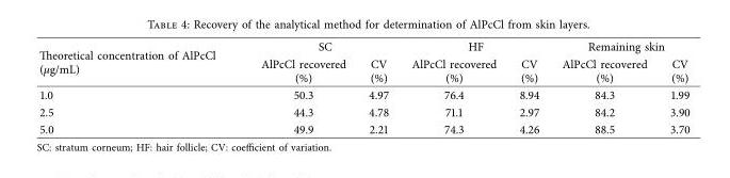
<table><thead><tr><td rowspan="2">Teoretical concentration of AlPcCl (µg/mL)</td><td colspan="2">SC</td><td colspan="2">HF</td><td colspan="2">Remaining skin</td></tr><tr><td>AlPcCl recovered (%)</td><td>CV (%)</td><td>AlPcCl recovered (%)</td><td>CV (%)</td><td>AlPcCl recovered (%)</td><td>CV (%)</td></tr></thead><tbody><tr><td>1.0</td><td>50.3</td><td>4.97</td><td>76.4</td><td>8.94</td><td>84.3</td><td>1.99</td></tr><tr><td>2.5</td><td>44.3</td><td>4.78</td><td>71.1</td><td>2.97</td><td>84.2</td><td>3.90</td></tr><tr><td>5.0</td><td>49.9</td><td>2.21</td><td>74.3</td><td>4.26</td><td>88.5</td><td>3.70</td></tr></tbody></table>